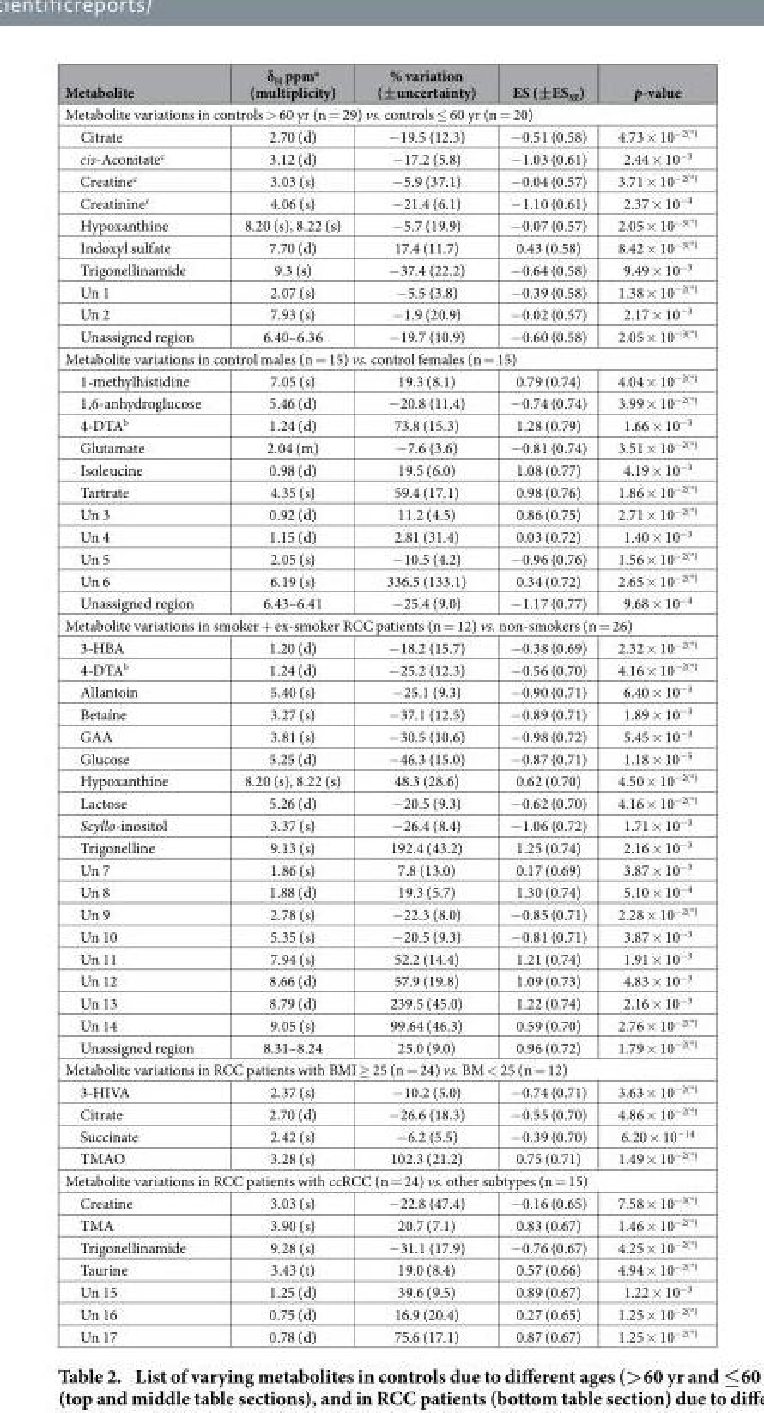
<table><thead><tr><td>Metabolite</td><td>δ<sub>H</sub> ppm<sup>a</sup> (multiplicity)</td><td>% variation (±uncertainty)</td><td>ES (±ES<sub>SE</sub>)</td><td>p-value</td></tr></thead><tbody><tr><td colspan="5">Metabolite variations in controls &gt; 60 yr (n = 29) vs. controls ≤ 60 yr (n = 20)</td></tr><tr><td>Citrate</td><td>2.70 (d)</td><td>− 19.5 (12.3)</td><td>− 0.51 (0.58)</td><td>4.73 × 10<sup>−2</sup>(*)</td></tr><tr><td>cis-Aconitate<sup>c</sup></td><td>3.12 (d)</td><td>− 17.2 (5.8)</td><td>− 1.03 (0.61)</td><td>2.44 × 10<sup>−3</sup></td></tr><tr><td>Creatine<sup>c</sup></td><td>3.03 (s)</td><td>− 5.9 (37.1)</td><td>− 0.04 (0.57)</td><td>3.71 × 10<sup>−2</sup>(*)</td></tr><tr><td>Creatinine<sup>c</sup></td><td>4.06 (s)</td><td>− 21.4 (6.1)</td><td>− 1.10 (0.61)</td><td>2.37 × 10<sup>−4</sup></td></tr><tr><td>Hypoxanthine</td><td>8.20 (s), 8.22 (s)</td><td>− 5.7 (19.9)</td><td>− 0.07 (0.57)</td><td>2.05 × 10<sup>−3</sup>(*)</td></tr><tr><td>Indoxyl sulfate</td><td>7.70 (d)</td><td>17.4 (11.7)</td><td>0.43 (0.58)</td><td>8.42 × 10<sup>−3</sup>(*)</td></tr><tr><td>Trigonellinamide</td><td>9.3 (s)</td><td>− 37.4 (22.2)</td><td>− 0.64 (0.58)</td><td>9.49 × 10<sup>−3</sup></td></tr><tr><td>Un 1</td><td>2.07 (s)</td><td>− 5.5 (3.8)</td><td>− 0.39 (0.58)</td><td>1.38 × 10<sup>−2</sup>(*)</td></tr><tr><td>Un 2</td><td>7.93 (s)</td><td>− 1.9 (20.9)</td><td>− 0.02 (0.57)</td><td>2.17 × 10<sup>−3</sup></td></tr><tr><td>Unassigned region</td><td>6.40–6.36</td><td>− 19.7 (10.9)</td><td>− 0.60 (0.58)</td><td>2.05 × 10<sup>−3</sup>(*)</td></tr><tr><td colspan="5">Metabolite variations in control males (n = 15) vs. control females (n = 15)</td></tr><tr><td>1-methylhistidine</td><td>7.05 (s)</td><td>19.3 (8.1)</td><td>0.79 (0.74)</td><td>4.04 × 10<sup>−2</sup>(*)</td></tr><tr><td>1,6-anhydroglucose</td><td>5.46 (d)</td><td>− 20.8 (11.4)</td><td>− 0.74 (0.74)</td><td>3.99 × 10<sup>−2</sup>(*)</td></tr><tr><td>4-DTA<sup>b</sup></td><td>1.24 (d)</td><td>73.8 (15.3)</td><td>1.28 (0.79)</td><td>1.66 × 10<sup>−3</sup></td></tr><tr><td>Glutamate</td><td>2.04 (m)</td><td>− 7.6 (3.6)</td><td>− 0.81 (0.74)</td><td>3.51 × 10<sup>−2</sup>(*)</td></tr><tr><td>Isoleucine</td><td>0.98 (d)</td><td>19.5 (6.0)</td><td>1.08 (0.77)</td><td>4.19 × 10<sup>−3</sup></td></tr><tr><td>Tartrate</td><td>4.35 (s)</td><td>59.4 (17.1)</td><td>0.98 (0.76)</td><td>1.86 × 10<sup>−2</sup>(*)</td></tr><tr><td>Un 3</td><td>0.92 (d)</td><td>11.2 (4.5)</td><td>0.86 (0.75)</td><td>2.71 × 10<sup>−2</sup>(*)</td></tr><tr><td>Un 4</td><td>1.15 (d)</td><td>2.81 (31.4)</td><td>0.03 (0.72)</td><td>1.40 × 10<sup>−3</sup></td></tr><tr><td>Un 5</td><td>2.05 (s)</td><td>− 10.5 (4.2)</td><td>− 0.96 (0.76)</td><td>1.56 × 10<sup>−2</sup>(*)</td></tr><tr><td>Un 6</td><td>6.19 (s)</td><td>336.5 (133.1)</td><td>0.34 (0.72)</td><td>2.65 × 10<sup>−2</sup>(*)</td></tr><tr><td>Unassigned region</td><td>6.43–6.41</td><td>− 25.4 (9.0)</td><td>− 1.17 (0.77)</td><td>9.68 × 10<sup>−4</sup></td></tr><tr><td colspan="5">Metabolite variations in smoker + ex-smoker RCC patients (n = 12) vs. non-smokers (n = 26)</td></tr><tr><td>3-HBA</td><td>1.20 (d)</td><td>− 18.2 (15.7)</td><td>− 0.38 (0.69)</td><td>2.32 × 10<sup>−2</sup>(*)</td></tr><tr><td>4-DTA<sup>b</sup></td><td>1.24 (d)</td><td>− 25.2 (12.3)</td><td>− 0.56 (0.70)</td><td>4.16 × 10<sup>−2</sup>(*)</td></tr><tr><td>Allantoin</td><td>5.40 (s)</td><td>− 25.1 (9.3)</td><td>− 0.90 (0.71)</td><td>6.40 × 10<sup>−3</sup></td></tr><tr><td>Betaíne</td><td>3.27 (s)</td><td>− 37.1 (12.5)</td><td>− 0.89 (0.71)</td><td>1.89 × 10<sup>−3</sup></td></tr><tr><td>GAA</td><td>3.81 (s)</td><td>− 30.5 (10.6)</td><td>− 0.98 (0.72)</td><td>5.45 × 10<sup>−3</sup></td></tr><tr><td>Glucose</td><td>5.25 (d)</td><td>− 46.3 (15.0)</td><td>− 0.87 (0.71)</td><td>1.18 × 10<sup>−5</sup></td></tr><tr><td>Hypoxanthine</td><td>8.20 (s), 8.22 (s)</td><td>48.3 (28.6)</td><td>0.62 (0.70)</td><td>4.50 × 10<sup>−2</sup>(*)</td></tr><tr><td>Lactose</td><td>5.26 (d)</td><td>− 20.5 (9.3)</td><td>− 0.62 (0.70)</td><td>4.16 × 10<sup>−2</sup>(*)</td></tr><tr><td>Scyllo-inositol</td><td>3.37 (s)</td><td>− 26.4 (8.4)</td><td>− 1.06 (0.72)</td><td>1.71 × 10<sup>−3</sup></td></tr><tr><td>Trigonelline</td><td>9.13 (s)</td><td>192.4 (43.2)</td><td>1.25 (0.74)</td><td>2.16 × 10<sup>−3</sup></td></tr><tr><td>Un 7</td><td>1.86 (s)</td><td>7.8 (13.0)</td><td>0.17 (0.69)</td><td>3.87 × 10<sup>−3</sup></td></tr><tr><td>Un 8</td><td>1.88 (d)</td><td>19.3 (5.7)</td><td>1.30 (0.74)</td><td>5.10 × 10<sup>−4</sup></td></tr><tr><td>Un 9</td><td>2.78 (s)</td><td>− 22.3 (8.0)</td><td>− 0.85 (0.71)</td><td>2.28 × 10<sup>−2</sup>(*)</td></tr><tr><td>Un 10</td><td>5.35 (s)</td><td>− 20.5 (9.3)</td><td>− 0.81 (0.71)</td><td>3.87 × 10<sup>−3</sup></td></tr><tr><td>Un 11</td><td>7.94 (s)</td><td>52.2 (14.4)</td><td>1.21 (0.74)</td><td>1.91 × 10<sup>−3</sup></td></tr><tr><td>Un 12</td><td>8.66 (d)</td><td>57.9 (19.8)</td><td>1.09 (0.73)</td><td>4.83 × 10<sup>−3</sup></td></tr><tr><td>Un 13</td><td>8.79 (d)</td><td>239.5 (45.0)</td><td>1.22 (0.74)</td><td>2.16 × 10<sup>−3</sup></td></tr><tr><td>Un 14</td><td>9.05 (s)</td><td>99.64 (46.3)</td><td>0.59 (0.70)</td><td>2.76 × 10<sup>−2</sup>(*)</td></tr><tr><td>Unassigned region</td><td>8.31–8.24</td><td>25.0 (9.0)</td><td>0.96 (0.72)</td><td>1.79 × 10<sup>−2</sup>(*)</td></tr><tr><td colspan="5">Metabolite variations in RCC patients with BMI ≥ 25 (n = 24) vs. BM &lt; 25 (n = 12)</td></tr><tr><td>3-HIVA</td><td>2.37 (s)</td><td>− 10.2 (5.0)</td><td>− 0.74 (0.71)</td><td>3.63 × 10<sup>−2</sup>(*)</td></tr><tr><td>Citrate</td><td>2.70 (d)</td><td>− 26.6 (18.3)</td><td>− 0.55 (0.70)</td><td>4.86 × 10<sup>−2</sup>(*)</td></tr><tr><td>Succinate</td><td>2.42 (s)</td><td>− 6.2 (5.5)</td><td>− 0.39 (0.70)</td><td>6.20 × 10<sup>−14</sup></td></tr><tr><td>TMAO</td><td>3.28 (s)</td><td>102.3 (21.2)</td><td>0.75 (0.71)</td><td>1.49 × 10<sup>−2</sup>(*)</td></tr><tr><td colspan="5">Metabolite variations in RCC patients with ccRCC (n = 24) vs. other subtypes (n = 15)</td></tr><tr><td>Creatine</td><td>3.03 (s)</td><td>− 22.8 (47.4)</td><td>− 0.16 (0.65)</td><td>7.58 × 10<sup>−3</sup>(*)</td></tr><tr><td>TMA</td><td>3.90 (s)</td><td>20.7 (7.1)</td><td>0.83 (0.67)</td><td>1.46 × 10<sup>−2</sup>(*)</td></tr><tr><td>Trigonellinamide</td><td>9.28 (s)</td><td>− 31.1 (17.9)</td><td>− 0.76 (0.67)</td><td>4.25 × 10<sup>−2</sup>(*)</td></tr><tr><td>Taurine</td><td>3.43 (t)</td><td>19.0 (8.4)</td><td>0.57 (0.66)</td><td>4.94 × 10<sup>−2</sup>(*)</td></tr><tr><td>Un 15</td><td>1.25 (d)</td><td>39.6 (9.5)</td><td>0.89 (0.67)</td><td>1.22 × 10<sup>−3</sup></td></tr><tr><td>Un 16</td><td>0.75 (d)</td><td>16.9 (20.4)</td><td>0.27 (0.65)</td><td>1.25 × 10<sup>−2</sup>(*)</td></tr><tr><td>Un 17</td><td>0.78 (d)</td><td>75.6 (17.1)</td><td>0.87 (0.67)</td><td>1.25 × 10<sup>−2</sup>(*)</td></tr></tbody></table>